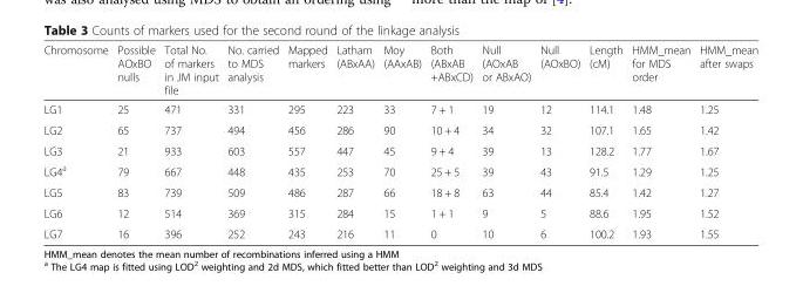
<table><thead><tr><td>Chromosome</td><td>Possible AOxBO nulls</td><td>Total No. of markers in JM input file</td><td>No. carried to MDS analysis</td><td>Mapped markers</td><td>Latham (ABxAA)</td><td>Moy (AAxAB)</td><td>Both (ABxAB +ABxCD)</td><td>Null (AOxAB or ABxAO)</td><td>Null (AOxBO)</td><td>Length (cM)</td><td>HMM_mean for MDS order</td><td>HMM_mean after swaps</td></tr></thead><tbody><tr><td>LG1</td><td>25</td><td>471</td><td>331</td><td>295</td><td>223</td><td>33</td><td>7 + 1</td><td>19</td><td>12</td><td>114.1</td><td>1.48</td><td>1.25</td></tr><tr><td>LG2</td><td>65</td><td>737</td><td>494</td><td>456</td><td>286</td><td>90</td><td>10 + 4</td><td>34</td><td>32</td><td>107.1</td><td>1.65</td><td>1.42</td></tr><tr><td>LG3</td><td>21</td><td>933</td><td>603</td><td>557</td><td>447</td><td>45</td><td>9 + 4</td><td>39</td><td>13</td><td>128.2</td><td>1.77</td><td>1.67</td></tr><tr><td>LG4<sup>a</sup></td><td>79</td><td>667</td><td>448</td><td>435</td><td>253</td><td>70</td><td>25 + 5</td><td>39</td><td>43</td><td>91.5</td><td>1.29</td><td>1.25</td></tr><tr><td>LG5</td><td>83</td><td>739</td><td>509</td><td>486</td><td>287</td><td>66</td><td>18 + 8</td><td>63</td><td>44</td><td>85.4</td><td>1.42</td><td>1.27</td></tr><tr><td>LG6</td><td>12</td><td>514</td><td>369</td><td>315</td><td>284</td><td>15</td><td>1 + 1</td><td>9</td><td>5</td><td>88.6</td><td>1.95</td><td>1.52</td></tr><tr><td>LG7</td><td>16</td><td>396</td><td>252</td><td>243</td><td>216</td><td>11</td><td>0</td><td>10</td><td>6</td><td>100.2</td><td>1.93</td><td>1.55</td></tr></tbody></table>